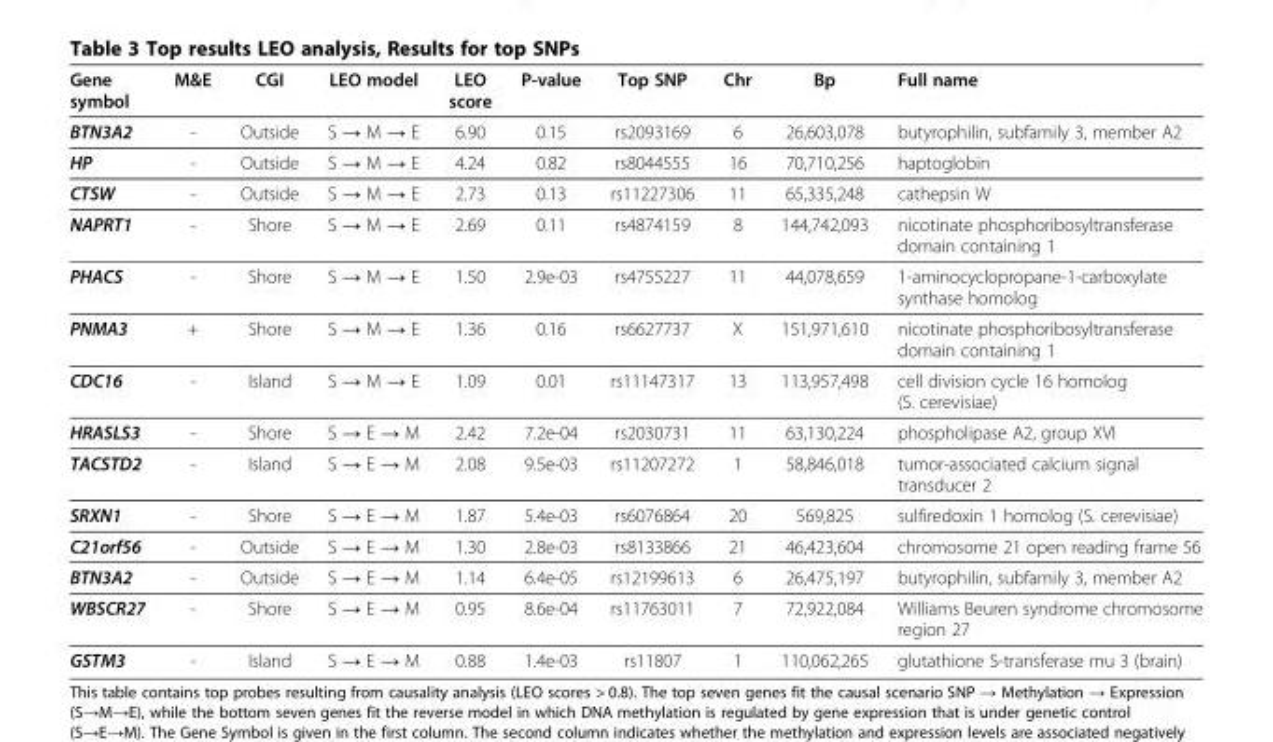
<table><thead><tr><td>Gene symbol</td><td>M&amp;E</td><td>CGI</td><td>LEO model</td><td>LEO score</td><td>P-value</td><td>Top SNP</td><td>Chr</td><td>Bp</td><td>Full name</td></tr></thead><tbody><tr><td>BTN3A2</td><td>-</td><td>Outside</td><td>S → M → E</td><td>6.90</td><td>0.15</td><td>rs2093169</td><td>6</td><td>26,603,078</td><td>butyrophilin, subfamily 3, member A2</td></tr><tr><td>HP</td><td>-</td><td>Outside</td><td>S → M → E</td><td>4.24</td><td>0.82</td><td>rs8044555</td><td>16</td><td>70,710,256</td><td>haptoglobin</td></tr><tr><td>CTSW</td><td>-</td><td>Outside</td><td>S → M → E</td><td>2.73</td><td>0.13</td><td>rs11227306</td><td>11</td><td>65,335,248</td><td>cathepsin W</td></tr><tr><td>NAPRT1</td><td>-</td><td>Shore</td><td>S → M → E</td><td>2.69</td><td>0.11</td><td>rs4874159</td><td>8</td><td>144,742,093</td><td>nicotinate phosphoribosyltransferase domain containing 1</td></tr><tr><td>PHACS</td><td>-</td><td>Shore</td><td>S → M → E</td><td>1.50</td><td>2.9e-03</td><td>rs4755227</td><td>11</td><td>44,078,659</td><td>1-aminocyclopropane-1-carboxylate synthase homolog</td></tr><tr><td>PNMA3</td><td>+</td><td>Shore</td><td>S → M → E</td><td>1.36</td><td>0.16</td><td>rs6627737</td><td>X</td><td>151,971,610</td><td>nicotinate phosphoribosyltransferase domain containing 1</td></tr><tr><td>CDC16</td><td>-</td><td>Island</td><td>S → M → E</td><td>1.09</td><td>0.01</td><td>rs11147317</td><td>13</td><td>113,957,498</td><td>cell division cycle 16 homolog (S. cerevisiae)</td></tr><tr><td>HRASLS3</td><td>-</td><td>Shore</td><td>S → E → M</td><td>2.42</td><td>7.2e-04</td><td>rs2030731</td><td>11</td><td>63,130,224</td><td>phospholipase A2, group XVI</td></tr><tr><td>TACSTD2</td><td>-</td><td>Island</td><td>S → E → M</td><td>2.08</td><td>9.5e-03</td><td>rs11207272</td><td>1</td><td>58,846,018</td><td>tumor-associated calcium signal transducer 2</td></tr><tr><td>SRXN1</td><td>-</td><td>Shore</td><td>S → E → M</td><td>1.87</td><td>5.4e-03</td><td>rs6076864</td><td>20</td><td>569,825</td><td>sulfiredoxin 1 homolog (S. cerevisiae)</td></tr><tr><td>C21orf56</td><td>-</td><td>Outside</td><td>S → E → M</td><td>1.30</td><td>2.8e-03</td><td>rs8133866</td><td>21</td><td>46,423,604</td><td>chromosome 21 open reading frame 56</td></tr><tr><td>BTN3A2</td><td>-</td><td>Outside</td><td>S → E → M</td><td>1.14</td><td>6.4e-05</td><td>rs12199613</td><td>6</td><td>26,475,197</td><td>butyrophilin, subfamily 3, member A2</td></tr><tr><td>WBSCR27</td><td>-</td><td>Shore</td><td>S → E → M</td><td>0.95</td><td>8.6e-04</td><td>rs11763011</td><td>7</td><td>72,922,084</td><td>Williams Beuren syndrome chromosome region 27</td></tr><tr><td>GSTM3</td><td>-</td><td>Island</td><td>S → E → M</td><td>0.88</td><td>1.4e-03</td><td>rs11807</td><td>1</td><td>110,062,265</td><td>glutathione S-transferase mu 3 (brain)</td></tr></tbody></table>